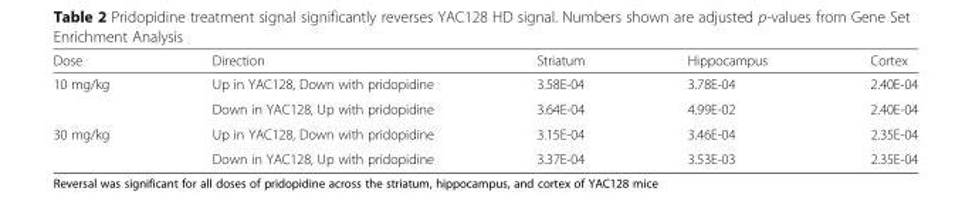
<table><thead><tr><td>Dose</td><td>Direction</td><td>Striatum</td><td>Hippocampus</td><td>Cortex</td></tr></thead><tbody><tr><td rowspan="2">10 mg/kg</td><td>Up in YAC128, Down with pridopidine</td><td>3.58E-04</td><td>3.78E-04</td><td>2.40E-04</td></tr><tr><td>Down in YAC128, Up with pridopidine</td><td>3.64E-04</td><td>4.99E-02</td><td>2.40E-04</td></tr><tr><td rowspan="2">30 mg/kg</td><td>Up in YAC128, Down with pridopidine</td><td>3.15E-04</td><td>3.46E-04</td><td>2.35E-04</td></tr><tr><td>Down in YAC128, Up with pridopidine</td><td>3.37E-04</td><td>3.53E-03</td><td>2.35E-04</td></tr></tbody></table>